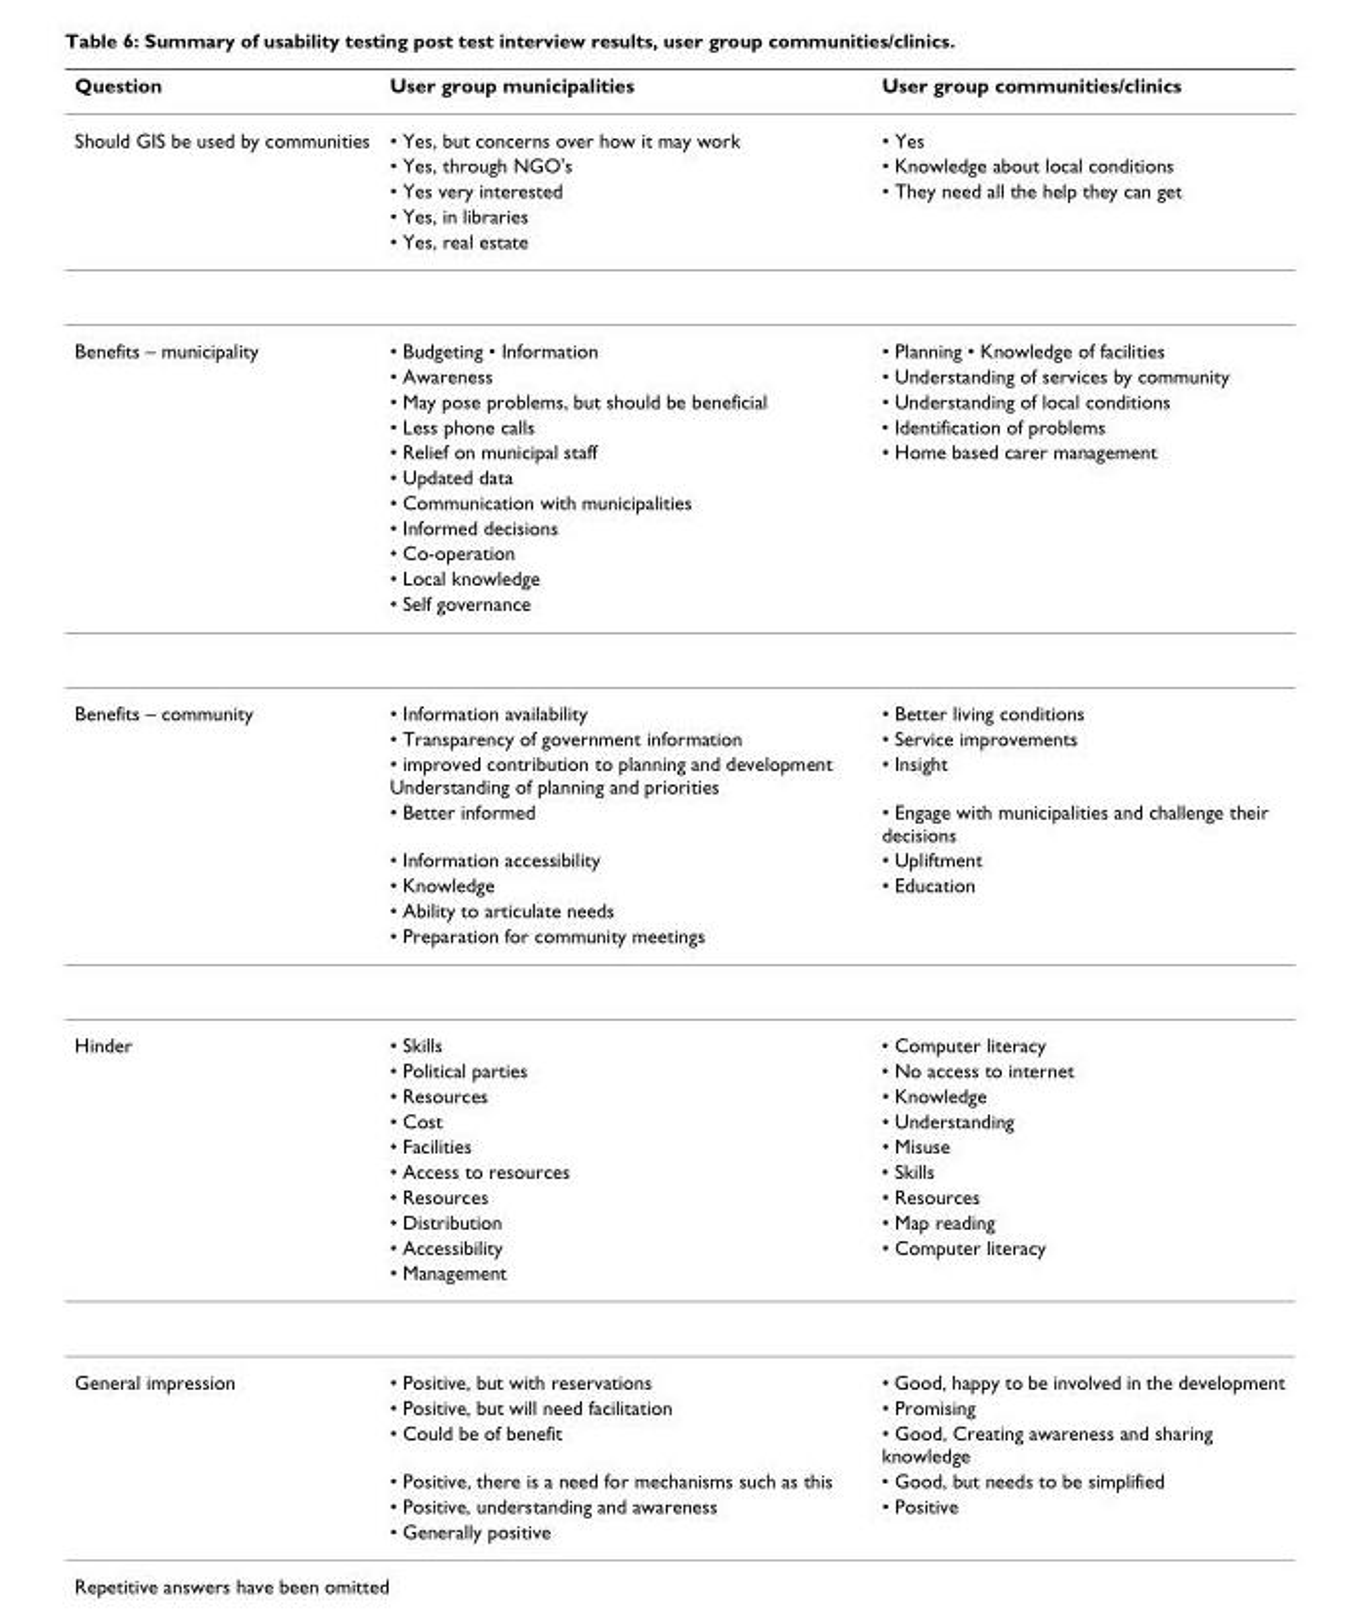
<table><thead><tr><td>Question</td><td>User group municipalities</td><td>User group communities/clinics</td></tr></thead><tbody><tr><td rowspan="5">Should GIS be used by communities</td><td>• Yes, but concerns over how it may work</td><td>• Yes</td></tr><tr><td>• Yes, through NGO&#x27;s</td><td>• Knowledge about local conditions</td></tr><tr><td>• Yes very interested</td><td>• They need all the help they can get</td></tr><tr><td>• Yes, in libraries</td><td></td></tr><tr><td>• Yes, real estate</td><td></td></tr><tr><td rowspan="11">Benefits – municipality</td><td>• Budgeting • Information</td><td>• Planning • Knowledge of facilities</td></tr><tr><td>• Awareness</td><td>• Understanding of services by community</td></tr><tr><td>• May pose problems, but should be beneficial</td><td>• Understanding of local conditions</td></tr><tr><td>• Less phone calls</td><td>• Identification of problems</td></tr><tr><td>• Relief on municipal staff</td><td>• Home based carer management</td></tr><tr><td>• Updated data</td><td></td></tr><tr><td>• Communication with municipalities</td><td></td></tr><tr><td>• Informed decisions</td><td></td></tr><tr><td>• Co-operation</td><td></td></tr><tr><td>• Local knowledge</td><td></td></tr><tr><td>• Self governance</td><td></td></tr><tr><td rowspan="8">Benefits – community</td><td>• Information availability</td><td>• Better living conditions</td></tr><tr><td>• Transparency of government information</td><td>• Service improvements</td></tr><tr><td>• improved contribution to planning and development Understanding of planning and priorities</td><td>• Insight</td></tr><tr><td>• Better informed</td><td>• Engage with municipalities and challenge their decisions</td></tr><tr><td>• Information accessibility</td><td>• Upliftment</td></tr><tr><td>• Knowledge</td><td>• Education</td></tr><tr><td>• Ability to articulate needs</td><td></td></tr><tr><td>• Preparation for community meetings</td><td></td></tr><tr><td rowspan="10">Hinder</td><td>• Skills</td><td>• Computer literacy</td></tr><tr><td>• Political parties</td><td>• No access to internet</td></tr><tr><td>• Resources</td><td>• Knowledge</td></tr><tr><td>• Cost</td><td>• Understanding</td></tr><tr><td>• Facilities</td><td>• Misuse</td></tr><tr><td>• Access to resources</td><td>• Skills</td></tr><tr><td>• Resources</td><td>• Resources</td></tr><tr><td>• Distribution</td><td>• Map reading</td></tr><tr><td>• Accessibility</td><td>• Computer literacy</td></tr><tr><td>• Management</td><td></td></tr><tr><td rowspan="6">General impression</td><td>• Positive, but with reservations</td><td>• Good, happy to be involved in the development</td></tr><tr><td>• Positive, but will need facilitation</td><td>• Promising</td></tr><tr><td>• Could be of benefit</td><td>• Good, Creating awareness and sharing knowledge</td></tr><tr><td>• Positive, there is a need for mechanisms such as this</td><td>• Good, but needs to be simplified</td></tr><tr><td>• Positive, understanding and awareness</td><td>• Positive</td></tr><tr><td>• Generally positive</td><td></td></tr></tbody></table>